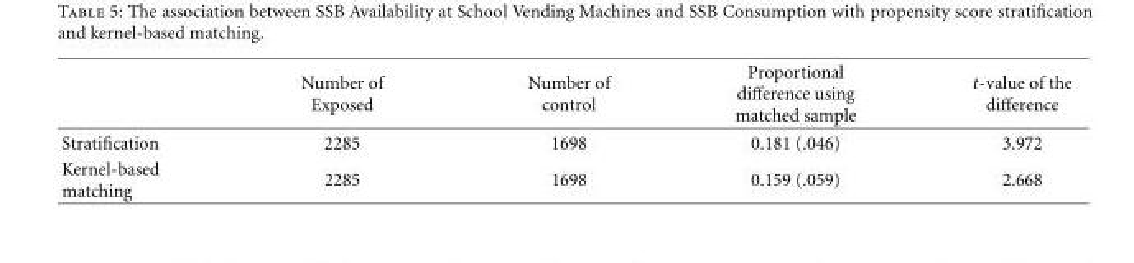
<table><thead><tr><td></td><td>Number of Exposed</td><td>Number of control</td><td>Proportional difference using matched sample</td><td>t-value of the difference</td></tr></thead><tbody><tr><td>Stratification</td><td>2285</td><td>1698</td><td>0.181 (.046)</td><td>3.972</td></tr><tr><td>Kernel-based matching</td><td>2285</td><td>1698</td><td>0.159 (.059)</td><td>2.668</td></tr></tbody></table>